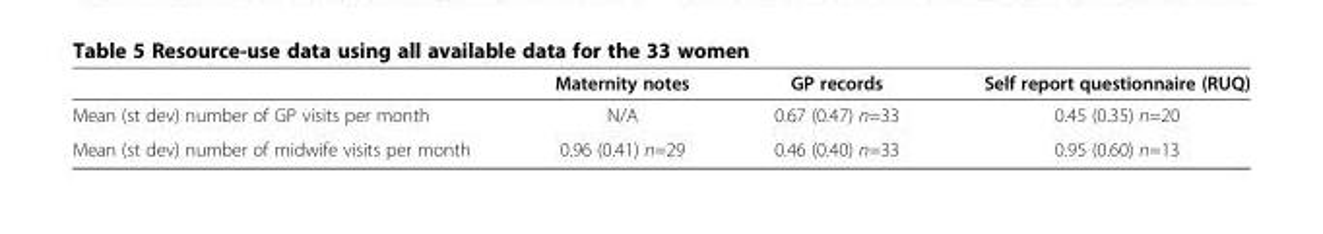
<table><thead><tr><td></td><td>Maternity notes</td><td>GP records</td><td>Self report questionnaire (RUQ)</td></tr></thead><tbody><tr><td>Mean (st dev) number of GP visits per month</td><td>N/A</td><td>0.67 (0.47) n=33</td><td>0.45 (0.35) n=20</td></tr><tr><td>Mean (st dev) number of midwife visits per month</td><td>0.96 (0.41) n=29</td><td>0.46 (0.40) n=33</td><td>0.95 (0.60) n=13</td></tr></tbody></table>